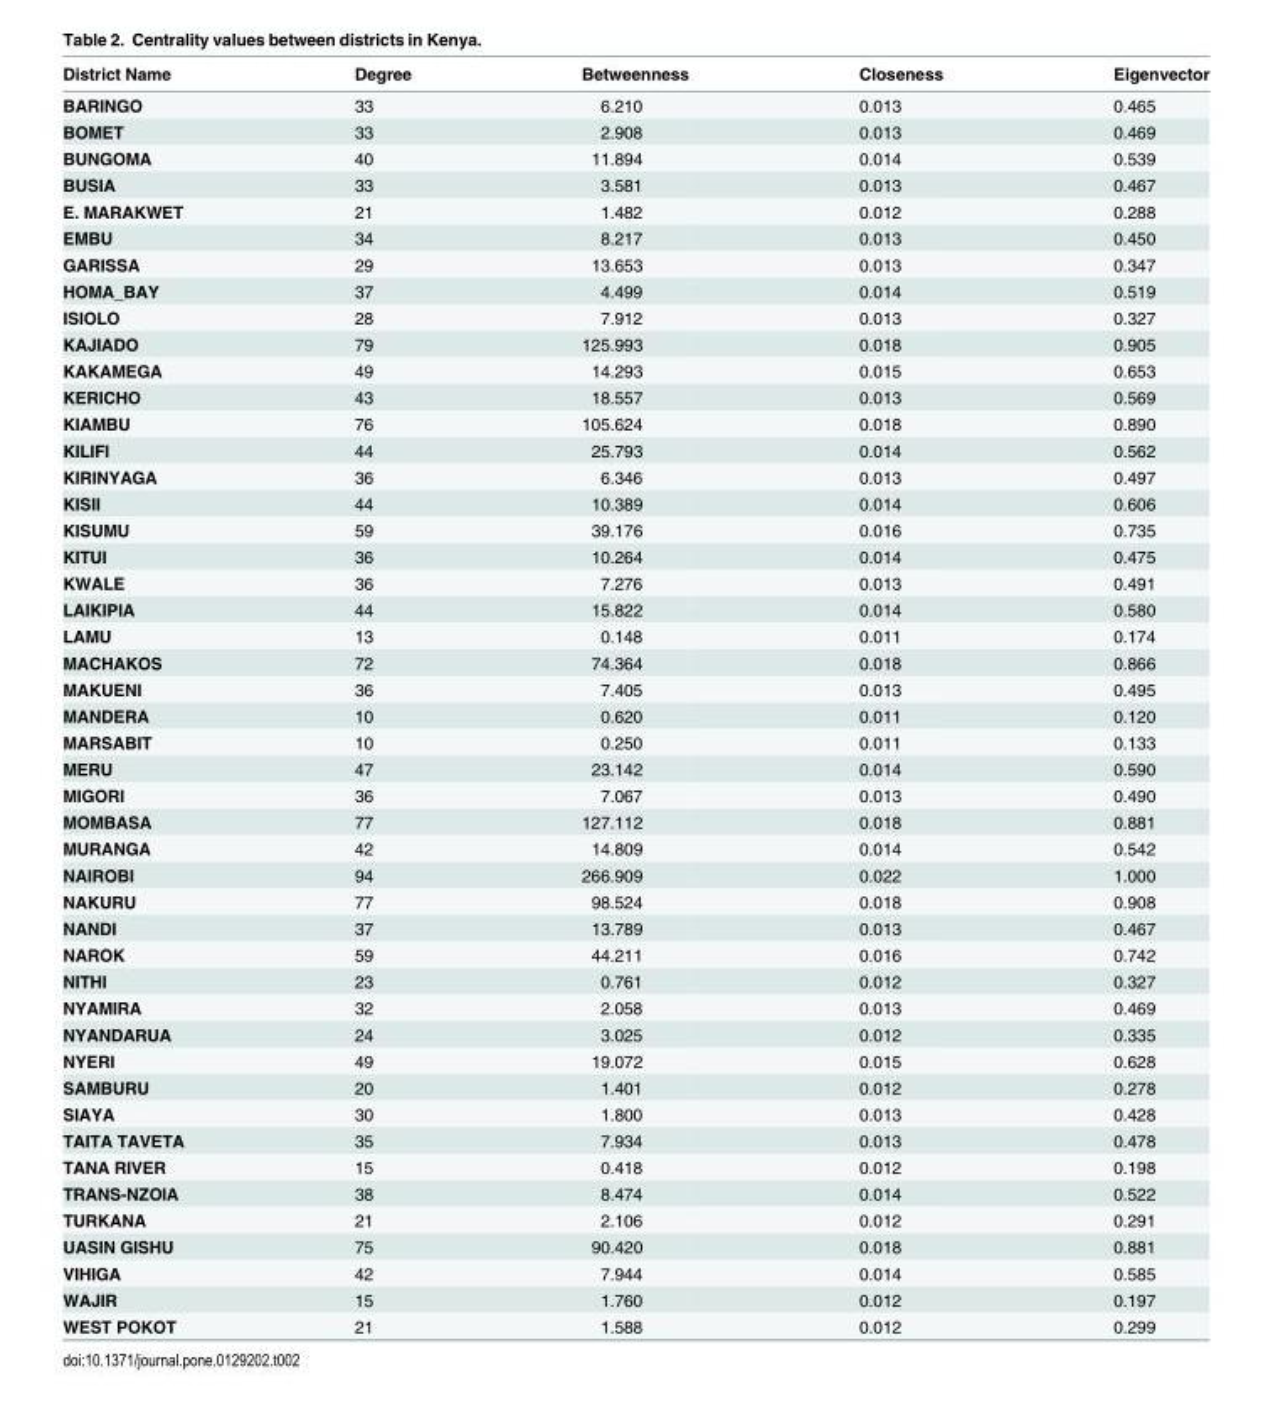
<table><thead><tr><td>District Name</td><td>Degree</td><td>Betweenness</td><td>Closeness</td><td>Eigenvector</td></tr></thead><tbody><tr><td>BARINGO</td><td>33</td><td>6.210</td><td>0.013</td><td>0.465</td></tr><tr><td>BOMET</td><td>33</td><td>2.908</td><td>0.013</td><td>0.469</td></tr><tr><td>BUNGOMA</td><td>40</td><td>11.894</td><td>0.014</td><td>0.539</td></tr><tr><td>BUSIA</td><td>33</td><td>3.581</td><td>0.013</td><td>0.467</td></tr><tr><td>E. MARAKWET</td><td>21</td><td>1.482</td><td>0.012</td><td>0.288</td></tr><tr><td>EMBU</td><td>34</td><td>8.217</td><td>0.013</td><td>0.450</td></tr><tr><td>GARISSA</td><td>29</td><td>13.653</td><td>0.013</td><td>0.347</td></tr><tr><td>HOMA_BAY</td><td>37</td><td>4.499</td><td>0.014</td><td>0.519</td></tr><tr><td>ISIOLO</td><td>28</td><td>7.912</td><td>0.013</td><td>0.327</td></tr><tr><td>KAJIADO</td><td>79</td><td>125.993</td><td>0.018</td><td>0.905</td></tr><tr><td>KAKAMEGA</td><td>49</td><td>14.293</td><td>0.015</td><td>0.653</td></tr><tr><td>KERICHO</td><td>43</td><td>18.557</td><td>0.013</td><td>0.569</td></tr><tr><td>KIAMBU</td><td>76</td><td>105.624</td><td>0.018</td><td>0.890</td></tr><tr><td>KILIFI</td><td>44</td><td>25.793</td><td>0.014</td><td>0.562</td></tr><tr><td>KIRINYAGA</td><td>36</td><td>6.346</td><td>0.013</td><td>0.497</td></tr><tr><td>KISII</td><td>44</td><td>10.389</td><td>0.014</td><td>0.606</td></tr><tr><td>KISUMU</td><td>59</td><td>39.176</td><td>0.016</td><td>0.735</td></tr><tr><td>KITUI</td><td>36</td><td>10.264</td><td>0.014</td><td>0.475</td></tr><tr><td>KWALE</td><td>36</td><td>7.276</td><td>0.013</td><td>0.491</td></tr><tr><td>LAIKIPIA</td><td>44</td><td>15.822</td><td>0.014</td><td>0.580</td></tr><tr><td>LAMU</td><td>13</td><td>0.148</td><td>0.011</td><td>0.174</td></tr><tr><td>MACHAKOS</td><td>72</td><td>74.364</td><td>0.018</td><td>0.866</td></tr><tr><td>MAKUENI</td><td>36</td><td>7.405</td><td>0.013</td><td>0.495</td></tr><tr><td>MANDERA</td><td>10</td><td>0.620</td><td>0.011</td><td>0.120</td></tr><tr><td>MARSABIT</td><td>10</td><td>0.250</td><td>0.011</td><td>0.133</td></tr><tr><td>MERU</td><td>47</td><td>23.142</td><td>0.014</td><td>0.590</td></tr><tr><td>MIGORI</td><td>36</td><td>7.067</td><td>0.013</td><td>0.490</td></tr><tr><td>MOMBASA</td><td>77</td><td>127.112</td><td>0.018</td><td>0.881</td></tr><tr><td>MURANGA</td><td>42</td><td>14.809</td><td>0.014</td><td>0.542</td></tr><tr><td>NAIROBI</td><td>94</td><td>266.909</td><td>0.022</td><td>1.000</td></tr><tr><td>NAKURU</td><td>77</td><td>98.524</td><td>0.018</td><td>0.908</td></tr><tr><td>NANDI</td><td>37</td><td>13.789</td><td>0.013</td><td>0.467</td></tr><tr><td>NAROK</td><td>59</td><td>44.211</td><td>0.016</td><td>0.742</td></tr><tr><td>NITHI</td><td>23</td><td>0.761</td><td>0.012</td><td>0.327</td></tr><tr><td>NYAMIRA</td><td>32</td><td>2.058</td><td>0.013</td><td>0.469</td></tr><tr><td>NYANDARUA</td><td>24</td><td>3.025</td><td>0.012</td><td>0.335</td></tr><tr><td>NYERI</td><td>49</td><td>19.072</td><td>0.015</td><td>0.628</td></tr><tr><td>SAMBURU</td><td>20</td><td>1.401</td><td>0.012</td><td>0.278</td></tr><tr><td>SIAYA</td><td>30</td><td>1.800</td><td>0.013</td><td>0.428</td></tr><tr><td>TAITA TAVETA</td><td>35</td><td>7.934</td><td>0.013</td><td>0.478</td></tr><tr><td>TANA RIVER</td><td>15</td><td>0.418</td><td>0.012</td><td>0.198</td></tr><tr><td>TRANS-NZOIA</td><td>38</td><td>8.474</td><td>0.014</td><td>0.522</td></tr><tr><td>TURKANA</td><td>21</td><td>2.106</td><td>0.012</td><td>0.291</td></tr><tr><td>UASIN GISHU</td><td>75</td><td>90.420</td><td>0.018</td><td>0.881</td></tr><tr><td>VIHIGA</td><td>42</td><td>7.944</td><td>0.014</td><td>0.585</td></tr><tr><td>WAJIR</td><td>15</td><td>1.760</td><td>0.012</td><td>0.197</td></tr><tr><td>WEST POKOT</td><td>21</td><td>1.588</td><td>0.012</td><td>0.299</td></tr></tbody></table>